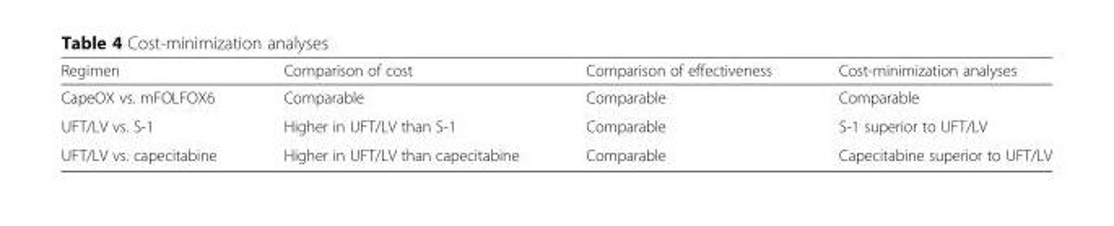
<table><thead><tr><td>Regimen</td><td>Comparison of cost</td><td>Comparison of effectiveness</td><td>Cost-minimization analyses</td></tr></thead><tbody><tr><td>CapeOX vs. mFOLFOX6</td><td>Comparable</td><td>Comparable</td><td>Comparable</td></tr><tr><td>UFT/LV vs. S-1</td><td>Higher in UFT/LV than S-1</td><td>Comparable</td><td>S-1 superior to UFT/LV</td></tr><tr><td>UFT/LV vs. capecitabine</td><td>Higher in UFT/LV than capecitabine</td><td>Comparable</td><td>Capecitabine superior to UFT/LV</td></tr></tbody></table>